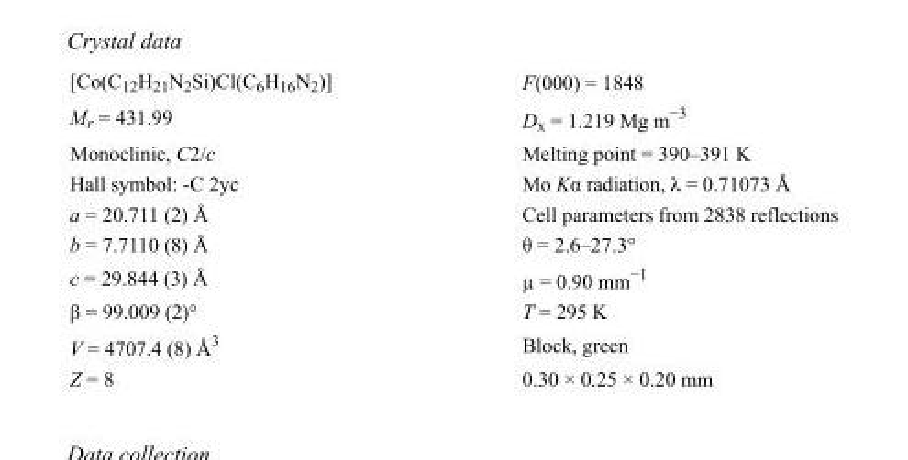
<table><tbody><tr><td>[Co(C<sub>12</sub>H<sub>21</sub>N<sub>2</sub>Si)Cl(C<sub>6</sub>H<sub>16</sub>N<sub>2</sub>)]</td><td>F(000) = 1848</td></tr><tr><td>M<sub>r</sub> = 431.99</td><td>D<sub>x</sub> = 1.219 Mg m<sup>−3</sup></td></tr><tr><td>Monoclinic, C2/c</td><td>Melting point = 390–391 K</td></tr><tr><td>Hall symbol: -C 2yc</td><td>Mo Kα radiation, λ = 0.71073 Å</td></tr><tr><td>a = 20.711 (2) Å</td><td>Cell parameters from 2838 reflections</td></tr><tr><td>b = 7.7110 (8) Å</td><td>θ = 2.6–27.3°</td></tr><tr><td>c = 29.844 (3) Å</td><td>µ = 0.90 mm<sup>−1</sup></td></tr><tr><td>β = 99.009 (2)°</td><td>T = 295 K</td></tr><tr><td>V = 4707.4 (8) Å<sup>3</sup></td><td>Block, green</td></tr><tr><td>Z = 8</td><td>0.30 × 0.25 × 0.20 mm</td></tr></tbody></table>